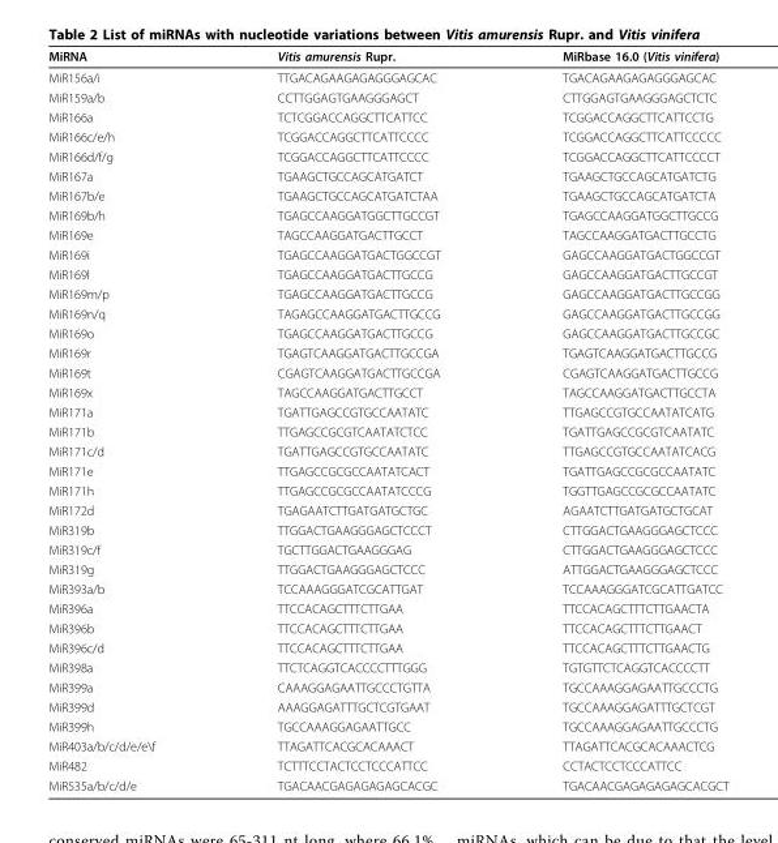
<table><thead><tr><td>MiRNA</td><td>Vitis amurensis Rupr.</td><td>MiRbase 16.0 (Vitis vinifera)</td></tr></thead><tbody><tr><td>MiR156a/i</td><td>TTGACAGAAGAGAGGGAGCAC</td><td>TGACAGAAGAGAGGGAGCAC</td></tr><tr><td>MiR159a/b</td><td>CCTTGGAGTGAAGGGAGCT</td><td>CTTGGAGTGAAGGGAGCTCTC</td></tr><tr><td>MiR166a</td><td>TCTCGGACCAGGCTTCATTCC</td><td>TCGGACCAGGCTTCATTCCTG</td></tr><tr><td>MiR166c/e/h</td><td>TCGGACCAGGCTTCATTCCCC</td><td>TCGGACCAGGCTTCATTCCCCC</td></tr><tr><td>MiR166d/f/g</td><td>TCGGACCAGGCTTCATTCCCC</td><td>TCGGACCAGGCTTCATTCCCCT</td></tr><tr><td>MiR167a</td><td>TGAAGCTGCCAGCATGATCT</td><td>TGAAGCTGCCAGCATGATCTG</td></tr><tr><td>MiR167b/e</td><td>TGAAGCTGCCAGCATGATCTAA</td><td>TGAAGCTGCCAGCATGATCTA</td></tr><tr><td>MiR169b/h</td><td>TGAGCCAAGGATGGCTTGCCGT</td><td>TGAGCCAAGGATGGCTTGCCG</td></tr><tr><td>MiR169e</td><td>TAGCCAAGGATGACTTGCCT</td><td>TAGCCAAGGATGACTTGCCTG</td></tr><tr><td>MiR169i</td><td>TGAGCCAAGGATGACTGGCCGT</td><td>GAGCCAAGGATGACTGGCCGT</td></tr><tr><td>MiR169l</td><td>TGAGCCAAGGATGACTTGCCG</td><td>GAGCCAAGGATGACTTGCCGT</td></tr><tr><td>MiR169m/p</td><td>TGAGCCAAGGATGACTTGCCG</td><td>GAGCCAAGGATGACTTGCCGG</td></tr><tr><td>MiR169n/q</td><td>TAGAGCCAAGGATGACTTGCCG</td><td>GAGCCAAGGATGACTTGCCGG</td></tr><tr><td>MiR169o</td><td>TGAGCCAAGGATGACTTGCCG</td><td>GAGCCAAGGATGACTTGCCGC</td></tr><tr><td>MiR169r</td><td>TGAGTCAAGGATGACTTGCCGA</td><td>TGAGTCAAGGATGACTTGCCG</td></tr><tr><td>MiR169t</td><td>CGAGTCAAGGATGACTTGCCGA</td><td>CGAGTCAAGGATGACTTGCCG</td></tr><tr><td>MiR169x</td><td>TAGCCAAGGATGACTTGCCT</td><td>TAGCCAAGGATGACTTGCCTA</td></tr><tr><td>MiR171a</td><td>TGATTGAGCCGTGCCAATATC</td><td>TTGAGCCGTGCCAATATCATG</td></tr><tr><td>MiR171b</td><td>TTGAGCCGCGTCAATATCTCC</td><td>TGATTGAGCCGCGTCAATATC</td></tr><tr><td>MiR171c/d</td><td>TGATTGAGCCGTGCCAATATC</td><td>TTGAGCCGTGCCAATATCACG</td></tr><tr><td>MiR171e</td><td>TTGAGCCGCGCCAATATCACT</td><td>TGATTGAGCCGCGCCAATATC</td></tr><tr><td>MiR171h</td><td>TTGAGCCGCGCCAATATCCCG</td><td>TGGTTGAGCCGCGCCAATATC</td></tr><tr><td>MiR172d</td><td>TGAGAATCTTGATGATGCTGC</td><td>AGAATCTTGATGATGCTGCAT</td></tr><tr><td>MiR319b</td><td>TTGGACTGAAGGGAGCTCCCT</td><td>CTTGGACTGAAGGGAGCTCCC</td></tr><tr><td>MiR319c/f</td><td>TGCTTGGACTGAAGGGAG</td><td>CTTGGACTGAAGGGAGCTCCC</td></tr><tr><td>MiR319g</td><td>TTGGACTGAAGGGAGCTCCC</td><td>ATTGGACTGAAGGGAGCTCCC</td></tr><tr><td>MiR393a/b</td><td>TCCAAAGGGATCGCATTGAT</td><td>TCCAAAGGGATCGCATTGATCC</td></tr><tr><td>MiR396a</td><td>TTCCACAGCTTTCTTGAA</td><td>TTCCACAGCTTTCTTGAACTA</td></tr><tr><td>MiR396b</td><td>TTCCACAGCTTTCTTGAA</td><td>TTCCACAGCTTTCTTGAACT</td></tr><tr><td>MiR396c/d</td><td>TTCCACAGCTTTCTTGAA</td><td>TTCCACAGCTTTCTTGAACTG</td></tr><tr><td>MiR398a</td><td>TTCTCAGGTCACCCCTTTGGG</td><td>TGTGTTCTCAGGTCACCCCTT</td></tr><tr><td>MiR399a</td><td>CAAAGGAGAATTGCCCTGTTA</td><td>TGCCAAAGGAGAATTGCCCTG</td></tr><tr><td>MiR399d</td><td>AAAGGAGATTTGCTCGTGAAT</td><td>TGCCAAAGGAGATTTGCTCGT</td></tr><tr><td>MiR399h</td><td>TGCCAAAGGAGAATTGCC</td><td>TGCCAAAGGAGAATTGCCCTG</td></tr><tr><td>MiR403a/b/c/d/e/e\f</td><td>TTAGATTCACGCACAAACT</td><td>TTAGATTCACGCACAAACTCG</td></tr><tr><td>MiR482</td><td>TCTTTCCTACTCCTCCCATTCC</td><td>CCTACTCCTCCCATTCC</td></tr><tr><td>MiR535a/b/c/d/e</td><td>TGACAACGAGAGAGAGCACGC</td><td>TGACAACGAGAGAGAGCACGCT</td></tr></tbody></table>